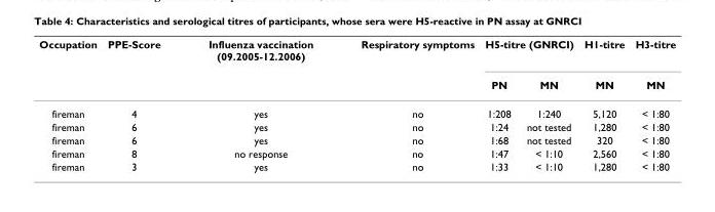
<table><thead><tr><td rowspan="2">Occupation</td><td rowspan="2">PPE-Score</td><td rowspan="2">Influenza vaccination (09.2005-12.2006)</td><td rowspan="2">Respiratory symptoms</td><td colspan="2">H5-titre (GNRCI)</td><td rowspan="2">H1-titre MN</td><td rowspan="2">H3-titre MN</td></tr><tr><td>PN</td><td>MN</td></tr></thead><tbody><tr><td>fireman</td><td>4</td><td>yes</td><td>no</td><td>1:208</td><td>1:240</td><td>5,120</td><td>&lt; 1:80</td></tr><tr><td>fireman</td><td>6</td><td>yes</td><td>no</td><td>1:24</td><td>not tested</td><td>1,280</td><td>&lt; 1:80</td></tr><tr><td>fireman</td><td>6</td><td>yes</td><td>no</td><td>1:68</td><td>not tested</td><td>320</td><td>&lt; 1:80</td></tr><tr><td>fireman</td><td>8</td><td>no response</td><td>no</td><td>1:47</td><td>&lt; 1:10</td><td>2,560</td><td>&lt; 1:80</td></tr><tr><td>fireman</td><td>3</td><td>yes</td><td>no</td><td>1:33</td><td>&lt; 1:10</td><td>1,280</td><td>&lt; 1:80</td></tr></tbody></table>